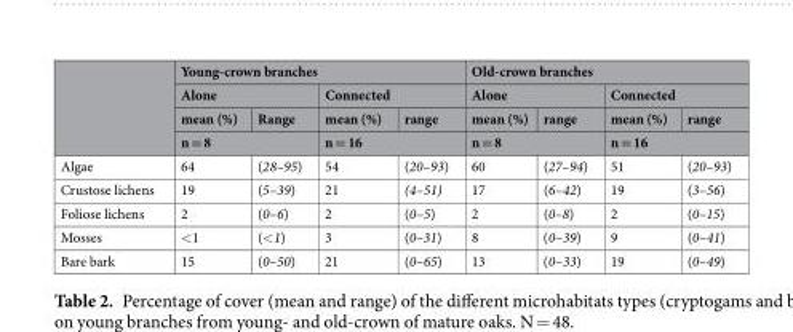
<table><thead><tr><td rowspan="4"></td><td colspan="4">Young-crown branches</td><td colspan="4">Old-crown branches</td></tr><tr><td colspan="2">Alone</td><td colspan="2">Connected</td><td colspan="2">Alone</td><td colspan="2">Connected</td></tr><tr><td>mean (%)</td><td>Range</td><td>mean (%)</td><td>range</td><td>mean (%)</td><td>range</td><td>mean (%)</td><td>range</td></tr><tr><td colspan="2">n = 8</td><td colspan="2">n = 16</td><td colspan="2">n = 8</td><td colspan="2">n = 16</td></tr></thead><tbody><tr><td>Algae</td><td>64</td><td>(28–95)</td><td>54</td><td>(20–93)</td><td>60</td><td>(27–94)</td><td>51</td><td>(20–93)</td></tr><tr><td>Crustose lichens</td><td>19</td><td>(5–39)</td><td>21</td><td>(4–51)</td><td>17</td><td>(6–42)</td><td>19</td><td>(3–56)</td></tr><tr><td>Foliose lichens</td><td>2</td><td>(0–6)</td><td>2</td><td>(0–5)</td><td>2</td><td>(0–8)</td><td>2</td><td>(0–15)</td></tr><tr><td>Mosses</td><td>&lt;1</td><td>(&lt;1)</td><td>3</td><td>(0–31)</td><td>8</td><td>(0–39)</td><td>9</td><td>(0–41)</td></tr><tr><td>Bare bark</td><td>15</td><td>(0–50)</td><td>21</td><td>(0–65)</td><td>13</td><td>(0–33)</td><td>19</td><td>(0–49)</td></tr></tbody></table>